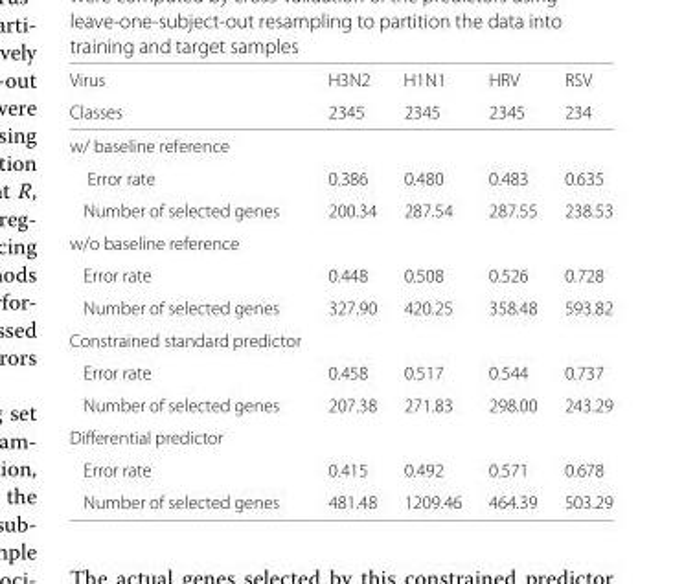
<table><thead><tr><td rowspan="2">Virus Classes</td><td rowspan="2">H3N2 2345</td><td rowspan="2">H1N1 2345</td><td rowspan="2">HRV 2345</td><td rowspan="2">RSV 234</td></tr><tr></tr></thead><tbody><tr><td colspan="5">w/ baseline reference</td></tr><tr><td>Error rate</td><td>0.386</td><td>0.480</td><td>0.483</td><td>0.635</td></tr><tr><td>Number of selected genes</td><td>200.34</td><td>287.54</td><td>287.55</td><td>238.53</td></tr><tr><td colspan="5">w/o baseline reference</td></tr><tr><td>Error rate</td><td>0.448</td><td>0.508</td><td>0.526</td><td>0.728</td></tr><tr><td>Number of selected genes</td><td>327.90</td><td>420.25</td><td>358.48</td><td>593.82</td></tr><tr><td colspan="5">Constrained standard predictor</td></tr><tr><td>Error rate</td><td>0.458</td><td>0.517</td><td>0.544</td><td>0.737</td></tr><tr><td>Number of selected genes</td><td>207.38</td><td>271.83</td><td>298.00</td><td>243.29</td></tr><tr><td colspan="5">Differential predictor</td></tr><tr><td>Error rate</td><td>0.415</td><td>0.492</td><td>0.571</td><td>0.678</td></tr><tr><td>Number of selected genes</td><td>481.48</td><td>1209.46</td><td>464.39</td><td>503.29</td></tr></tbody></table>